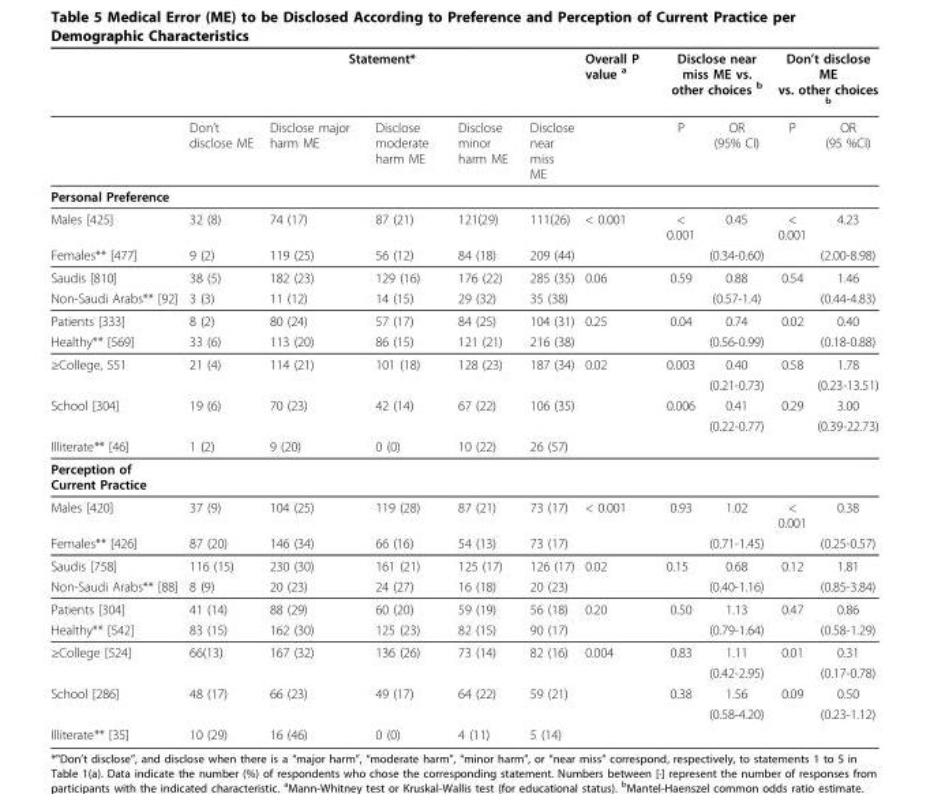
<table><thead><tr><td rowspan="2"></td><td colspan="5">Statement*</td><td rowspan="2">Overall P value <sup>a</sup></td><td colspan="2">Disclose near miss ME vs. other choices <sup>b</sup></td><td colspan="2">Don’t disclose ME vs. other choices <sup>b</sup></td></tr><tr><td>Don’t disclose ME</td><td>Disclose major harm ME</td><td>Disclose moderate harm ME</td><td>Disclose minor harm ME</td><td>Disclose near miss ME</td><td>P</td><td>OR (95% CI)</td><td>P</td><td>OR (95 %CI)</td></tr></thead><tbody><tr><td colspan="11">Personal Preference</td></tr><tr><td>Males [425]</td><td>32 (8)</td><td>74 (17)</td><td>87 (21)</td><td>121(29)</td><td>111(26)</td><td>&lt; 0.001</td><td>&lt; 0.001</td><td>0.45</td><td>&lt; 0.001</td><td>4.23</td></tr><tr><td>Females** [477]</td><td>9 (2)</td><td>119 (25)</td><td>56 (12)</td><td>84 (18)</td><td>209 (44)</td><td></td><td></td><td>(0.34-0.60)</td><td></td><td>(2.00-8.98)</td></tr><tr><td>Saudis [810]</td><td>38 (5)</td><td>182 (23)</td><td>129 (16)</td><td>176 (22)</td><td>285 (35)</td><td>0.06</td><td>0.59</td><td>0.88</td><td>0.54</td><td>1.46</td></tr><tr><td>Non-Saudi Arabs** [92]</td><td>3 (3)</td><td>11 (12)</td><td>14 (15)</td><td>29 (32)</td><td>35 (38)</td><td></td><td></td><td>(0.57-1.4)</td><td></td><td>(0.44-4.83)</td></tr><tr><td>Patients [333]</td><td>8 (2)</td><td>80 (24)</td><td>57 (17)</td><td>84 (25)</td><td>104 (31)</td><td>0.25</td><td>0.04</td><td>0.74</td><td>0.02</td><td>0.40</td></tr><tr><td>Healthy** [569]</td><td>33 (6)</td><td>113 (20)</td><td>86 (15)</td><td>121 (21)</td><td>216 (38)</td><td></td><td></td><td>(0.56-0.99)</td><td></td><td>(0.18-0.88)</td></tr><tr><td rowspan="2">≥College, 551</td><td>21 (4)</td><td>114 (21)</td><td>101 (18)</td><td>128 (23)</td><td>187 (34)</td><td>0.02</td><td>0.003</td><td>0.40</td><td>0.58</td><td>1.78</td></tr><tr><td></td><td></td><td></td><td></td><td></td><td></td><td></td><td>(0.21-0.73)</td><td></td><td>(0.23-13.51)</td></tr><tr><td rowspan="2">School [304]</td><td>19 (6)</td><td>70 (23)</td><td>42 (14)</td><td>67 (22)</td><td>106 (35)</td><td></td><td>0.006</td><td>0.41</td><td>0.29</td><td>3.00</td></tr><tr><td></td><td></td><td></td><td></td><td></td><td></td><td></td><td>(0.22-0.77)</td><td></td><td>(0.39-22.73)</td></tr><tr><td>Illiterate** [46]</td><td>1 (2)</td><td>9 (20)</td><td>0 (0)</td><td>10 (22)</td><td>26 (57)</td><td></td><td></td><td></td><td></td><td></td></tr><tr><td colspan="11">Perception of Current Practice</td></tr><tr><td>Males [420]</td><td>37 (9)</td><td>104 (25)</td><td>119 (28)</td><td>87 (21)</td><td>73 (17)</td><td>&lt; 0.001</td><td>0.93</td><td>1.02</td><td>&lt; 0.001</td><td>0.38</td></tr><tr><td>Females** [426]</td><td>87 (20)</td><td>146 (34)</td><td>66 (16)</td><td>54 (13)</td><td>73 (17)</td><td></td><td></td><td>(0.71-1.45)</td><td></td><td>(0.25-0.57)</td></tr><tr><td>Saudis [758]</td><td>116 (15)</td><td>230 (30)</td><td>161 (21)</td><td>125 (17)</td><td>126 (17)</td><td>0.02</td><td>0.15</td><td>0.68</td><td>0.12</td><td>1.81</td></tr><tr><td>Non-Saudi Arabs** [88]</td><td>8 (9)</td><td>20 (23)</td><td>24 (27)</td><td>16 (18)</td><td>20 (23)</td><td></td><td></td><td>(0.40-1.16)</td><td></td><td>(0.85-3.84)</td></tr><tr><td>Patients [304]</td><td>41 (14)</td><td>88 (29)</td><td>60 (20)</td><td>59 (19)</td><td>56 (18)</td><td>0.20</td><td>0.50</td><td>1.13</td><td>0.47</td><td>0.86</td></tr><tr><td>Healthy** [542]</td><td>83 (15)</td><td>162 (30)</td><td>125 (23)</td><td>82 (15)</td><td>90 (17)</td><td></td><td></td><td>(0.79-1.64)</td><td></td><td>(0.58-1.29)</td></tr><tr><td rowspan="2">≥College [524]</td><td>66(13)</td><td>167 (32)</td><td>136 (26)</td><td>73 (14)</td><td>82 (16)</td><td>0.004</td><td>0.83</td><td>1.11</td><td>0.01</td><td>0.31</td></tr><tr><td></td><td></td><td></td><td></td><td></td><td></td><td></td><td>(0.42-2.95)</td><td></td><td>(0.17-0.78)</td></tr><tr><td rowspan="2">School [286]</td><td>48 (17)</td><td>66 (23)</td><td>49 (17)</td><td>64 (22)</td><td>59 (21)</td><td></td><td>0.38</td><td>1.56</td><td>0.09</td><td>0.50</td></tr><tr><td></td><td></td><td></td><td></td><td></td><td></td><td></td><td>(0.58-4.20)</td><td></td><td>(0.23-1.12)</td></tr><tr><td>Illiterate** [35]</td><td>10 (29)</td><td>16 (46)</td><td>0 (0)</td><td>4 (11)</td><td>5 (14)</td><td></td><td></td><td></td><td></td><td></td></tr></tbody></table>